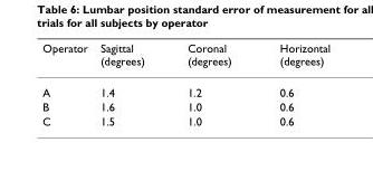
<table><thead><tr><td>Operator</td><td>Sagittal (degrees)</td><td>Coronal (degrees)</td><td>Horizontal (degrees)</td></tr></thead><tbody><tr><td>A</td><td>1.4</td><td>1.2</td><td>0.6</td></tr><tr><td>B</td><td>1.6</td><td>1.0</td><td>0.6</td></tr><tr><td>C</td><td>1.5</td><td>1.0</td><td>0.6</td></tr></tbody></table>